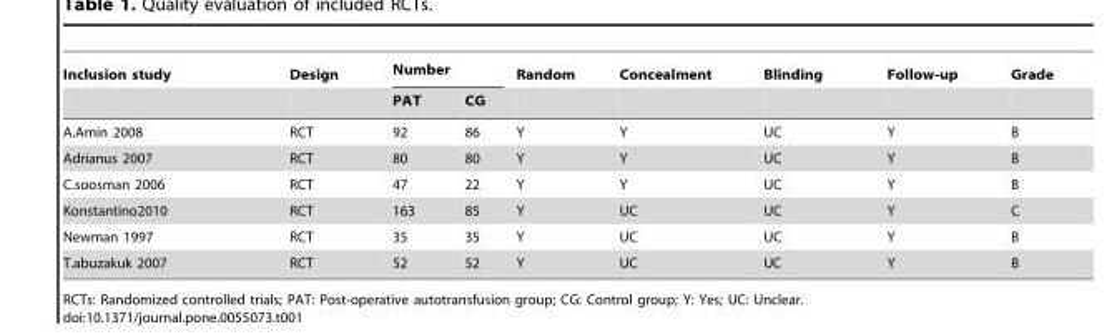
<table><thead><tr><td rowspan="2">Inclusion study</td><td rowspan="2">Design</td><td colspan="2">Number</td><td rowspan="2">Random</td><td rowspan="2">Concealment</td><td rowspan="2">Blinding</td><td rowspan="2">Follow-up</td><td rowspan="2">Grade</td></tr><tr><td>PAT</td><td>CG</td></tr></thead><tbody><tr><td>A.Amin 2008</td><td>RCT</td><td>92</td><td>86</td><td>Y</td><td>Y</td><td>UC</td><td>Y</td><td>B</td></tr><tr><td>Adrianus 2007</td><td>RCT</td><td>80</td><td>80</td><td>Y</td><td>Y</td><td>UC</td><td>Y</td><td>B</td></tr><tr><td>C.soosman 2006</td><td>RCT</td><td>47</td><td>22</td><td>Y</td><td>Y</td><td>UC</td><td>Y</td><td>B</td></tr><tr><td>Konstantino2010</td><td>RCT</td><td>163</td><td>85</td><td>Y</td><td>UC</td><td>UC</td><td>Y</td><td>C</td></tr><tr><td>Newman 1997</td><td>RCT</td><td>35</td><td>35</td><td>Y</td><td>UC</td><td>UC</td><td>Y</td><td>B</td></tr><tr><td>T.abuzakuk 2007</td><td>RCT</td><td>52</td><td>52</td><td>Y</td><td>UC</td><td>UC</td><td>Y</td><td>B</td></tr></tbody></table>